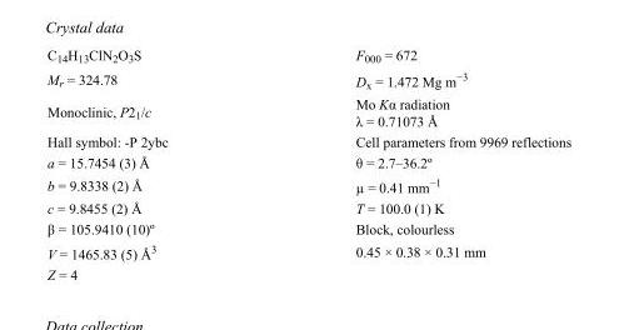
<table><tbody><tr><td>C<sub>14</sub>H<sub>13</sub>ClN<sub>2</sub>O<sub>3</sub>S</td><td>F<sub>000</sub> = 672</td></tr><tr><td>M<sub>r</sub> = 324.78</td><td>D<sub>x</sub> = 1.472 Mg m<sup>−3</sup></td></tr><tr><td>Monoclinic, P2<sub>1</sub>/c</td><td>Mo Kα radiation λ = 0.71073 Å</td></tr><tr><td>Hall symbol: -P 2ybc</td><td>Cell parameters from 9969 reflections</td></tr><tr><td>a = 15.7454 (3) Å</td><td>θ = 2.7–36.2º</td></tr><tr><td>b = 9.8338 (2) Å</td><td>µ = 0.41 mm<sup>−1</sup></td></tr><tr><td>c = 9.8455 (2) Å</td><td>T = 100.0 (1) K</td></tr><tr><td>β = 105.9410 (10)º</td><td>Block, colourless</td></tr><tr><td>V = 1465.83 (5) Å<sup>3</sup></td><td>0.45 × 0.38 × 0.31 mm</td></tr><tr><td>Z = 4</td><td></td></tr></tbody></table>